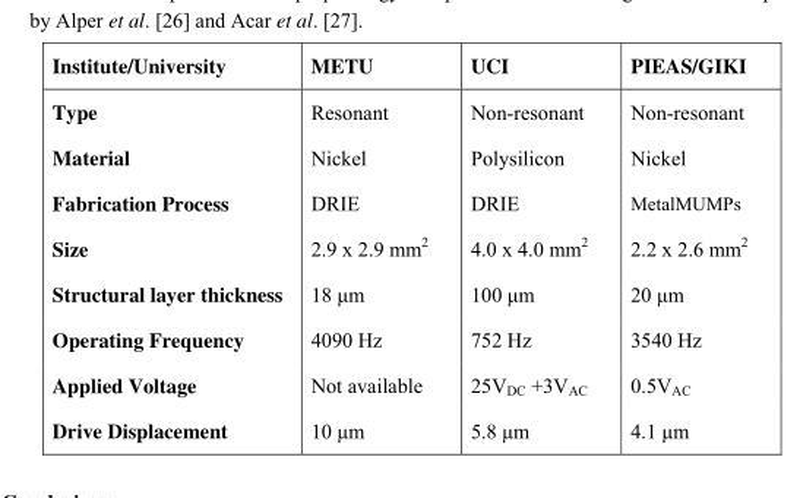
<table><thead><tr><td>Institute/University</td><td>METU</td><td>UCI</td><td>PIEAS/GIKI</td></tr></thead><tbody><tr><td>Type</td><td>Resonant</td><td>Non-resonant</td><td>Non-resonant</td></tr><tr><td>Material</td><td>Nickel</td><td>Polysilicon</td><td>Nickel</td></tr><tr><td>Fabrication Process</td><td>DRIE</td><td>DRIE</td><td>MetalMUMPs</td></tr><tr><td>Size</td><td>2.9 x 2.9 mm2</td><td>4.0 x 4.0 mm2</td><td>2.2 x 2.6 mm2</td></tr><tr><td>Structural layer thickness</td><td>18 μm</td><td>100 μm</td><td>20 μm</td></tr><tr><td>Operating Frequency</td><td>4090 Hz</td><td>752 Hz</td><td>3540 Hz</td></tr><tr><td>Applied Voltage</td><td>Not available</td><td>25V<sub>DC</sub> +3V<sub>AC</sub></td><td>0.5V<sub>AC</sub></td></tr><tr><td>Drive Displacement</td><td>10 μm</td><td>5.8 μm</td><td>4.1 μm</td></tr></tbody></table>